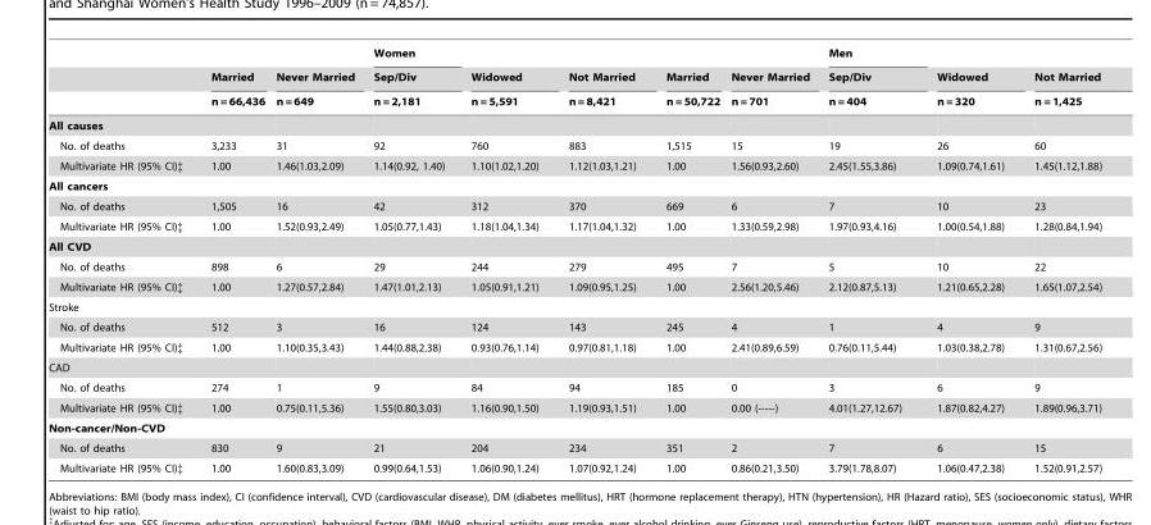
<table><thead><tr><td rowspan="3"></td><td rowspan="3">Married n = 66,436</td><td rowspan="3">Never Married n = 649</td><td rowspan="3">Women Sep/Div n = 2,181</td><td rowspan="3">Widowed n = 5,591</td><td rowspan="3">Not Married n = 8,421</td><td rowspan="3">Married n = 50,722</td><td rowspan="3">Never Married n = 701</td><td rowspan="3">Men Sep/Div n = 404</td><td rowspan="3">Widowed n = 320</td><td rowspan="3">Not Married n = 1,425</td></tr><tr></tr><tr></tr></thead><tbody><tr><td colspan="11">All causes</td></tr><tr><td>No. of deaths</td><td>3,233</td><td>31</td><td>92</td><td>760</td><td>883</td><td>1,515</td><td>15</td><td>19</td><td>26</td><td>60</td></tr><tr><td>Multivariate HR (95% CI)‡</td><td>1.00</td><td>1.46(1.03,2.09)</td><td>1.14(0.92, 1.40)</td><td>1.10(1.02,1.20)</td><td>1.12(1.03,1.21)</td><td>1.00</td><td>1.56(0.93,2.60)</td><td>2.45(1.55,3.86)</td><td>1.09(0.74,1.61)</td><td>1.45(1.12,1.88)</td></tr><tr><td colspan="11">All cancers</td></tr><tr><td>No. of deaths</td><td>1,505</td><td>16</td><td>42</td><td>312</td><td>370</td><td>669</td><td>6</td><td>7</td><td>10</td><td>23</td></tr><tr><td>Multivariate HR (95% CI)‡</td><td>1.00</td><td>1.52(0.93,2.49)</td><td>1.05(0.77,1.43)</td><td>1.18(1.04,1.34)</td><td>1.17(1.04,1.32)</td><td>1.00</td><td>1.33(0.59,2.98)</td><td>1.97(0.93,4.16)</td><td>1.00(0.54,1.88)</td><td>1.28(0.84,1.94)</td></tr><tr><td colspan="11">All CVD</td></tr><tr><td>No. of deaths</td><td>898</td><td>6</td><td>29</td><td>244</td><td>279</td><td>495</td><td>7</td><td>5</td><td>10</td><td>22</td></tr><tr><td>Multivariate HR (95% CI)‡</td><td>1.00</td><td>1.27(0.57,2.84)</td><td>1.47(1.01,2.13)</td><td>1.05(0.91,1.21)</td><td>1.09(0.95,1.25)</td><td>1.00</td><td>2.56(1.20,5.46)</td><td>2.12(0.87,5.13)</td><td>1.21(0.65,2.28)</td><td>1.65(1.07,2.54)</td></tr><tr><td colspan="11">Stroke</td></tr><tr><td>No. of deaths</td><td>512</td><td>3</td><td>16</td><td>124</td><td>143</td><td>245</td><td>4</td><td>1</td><td>4</td><td>9</td></tr><tr><td>Multivariate HR (95% CI)‡</td><td>1.00</td><td>1.10(0.35,3.43)</td><td>1.44(0.88,2.38)</td><td>0.93(0.76,1.14)</td><td>0.97(0.81,1.18)</td><td>1.00</td><td>2.41(0.89,6.59)</td><td>0.76(0.11,5.44)</td><td>1.03(0.38,2.78)</td><td>1.31(0.67,2.56)</td></tr><tr><td colspan="11">CAD</td></tr><tr><td>No. of deaths</td><td>274</td><td>1</td><td>9</td><td>84</td><td>94</td><td>185</td><td>0</td><td>3</td><td>6</td><td>9</td></tr><tr><td>Multivariate HR (95% CI)‡</td><td>1.00</td><td>0.75(0.11,5.36)</td><td>1.55(0.80,3.03)</td><td>1.16(0.90,1.50)</td><td>1.19(0.93,1.51)</td><td>1.00</td><td>0.00 (-----)</td><td>4.01(1.27,12.67)</td><td>1.87(0.82,4.27)</td><td>1.89(0.96,3.71)</td></tr><tr><td colspan="11">Non-cancer/Non-CVD</td></tr><tr><td>No. of deaths</td><td>830</td><td>9</td><td>21</td><td>204</td><td>234</td><td>351</td><td>2</td><td>7</td><td>6</td><td>15</td></tr><tr><td>Multivariate HR (95% CI)‡</td><td>1.00</td><td>1.60(0.83,3.09)</td><td>0.99(0.64,1.53)</td><td>1.06(0.90,1.24)</td><td>1.07(0.92,1.24)</td><td>1.00</td><td>0.86(0.21,3.50)</td><td>3.79(1.78,8.07)</td><td>1.06(0.47,2.38)</td><td>1.52(0.91,2.57)</td></tr></tbody></table>